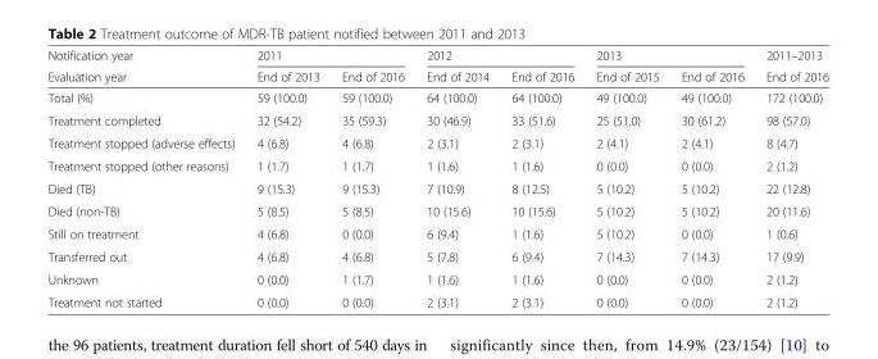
<table><thead><tr><td rowspan="2">Notification year Evaluation year</td><td colspan="2">2011</td><td colspan="2">2012</td><td colspan="2">2013</td><td rowspan="2">2011–2013 End of 2016</td></tr><tr><td>End of 2013</td><td>End of 2016</td><td>End of 2014</td><td>End of 2016</td><td>End of 2015</td><td>End of 2016</td></tr></thead><tbody><tr><td>Total (%)</td><td>59 (100.0)</td><td>59 (100.0)</td><td>64 (100.0)</td><td>64 (100.0)</td><td>49 (100.0)</td><td>49 (100.0)</td><td>172 (100.0)</td></tr><tr><td>Treatment completed</td><td>32 (54.2)</td><td>35 (59.3)</td><td>30 (46.9)</td><td>33 (51.6)</td><td>25 (51.0)</td><td>30 (61.2)</td><td>98 (57.0)</td></tr><tr><td>Treatment stopped (adverse effects)</td><td>4 (6.8)</td><td>4 (6.8)</td><td>2 (3.1)</td><td>2 (3.1)</td><td>2 (4.1)</td><td>2 (4.1)</td><td>8 (4.7)</td></tr><tr><td>Treatment stopped (other reasons)</td><td>1 (1.7)</td><td>1 (1.7)</td><td>1 (1.6)</td><td>1 (1.6)</td><td>0 (0.0)</td><td>0 (0.0)</td><td>2 (1.2)</td></tr><tr><td>Died (TB)</td><td>9 (15.3)</td><td>9 (15.3)</td><td>7 (10.9)</td><td>8 (12.5)</td><td>5 (10.2)</td><td>5 (10.2)</td><td>22 (12.8)</td></tr><tr><td>Died (non-TB)</td><td>5 (8.5)</td><td>5 (8.5)</td><td>10 (15.6)</td><td>10 (15.6)</td><td>5 (10.2)</td><td>5 (10.2)</td><td>20 (11.6)</td></tr><tr><td>Still on treatment</td><td>4 (6.8)</td><td>0 (0.0)</td><td>6 (9.4)</td><td>1 (1.6)</td><td>5 (10.2)</td><td>0 (0.0)</td><td>1 (0.6)</td></tr><tr><td>Transferred out</td><td>4 (6.8)</td><td>4 (6.8)</td><td>5 (7.8)</td><td>6 (9.4)</td><td>7 (14.3)</td><td>7 (14.3)</td><td>17 (9.9)</td></tr><tr><td>Unknown</td><td>0 (0.0)</td><td>1 (1.7)</td><td>1 (1.6)</td><td>1 (1.6)</td><td>0 (0.0)</td><td>0 (0.0)</td><td>2 (1.2)</td></tr><tr><td>Treatment not started</td><td>0 (0.0)</td><td>0 (0.0)</td><td>2 (3.1)</td><td>2 (3.1)</td><td>0 (0.0)</td><td>0 (0.0)</td><td>2 (1.2)</td></tr></tbody></table>